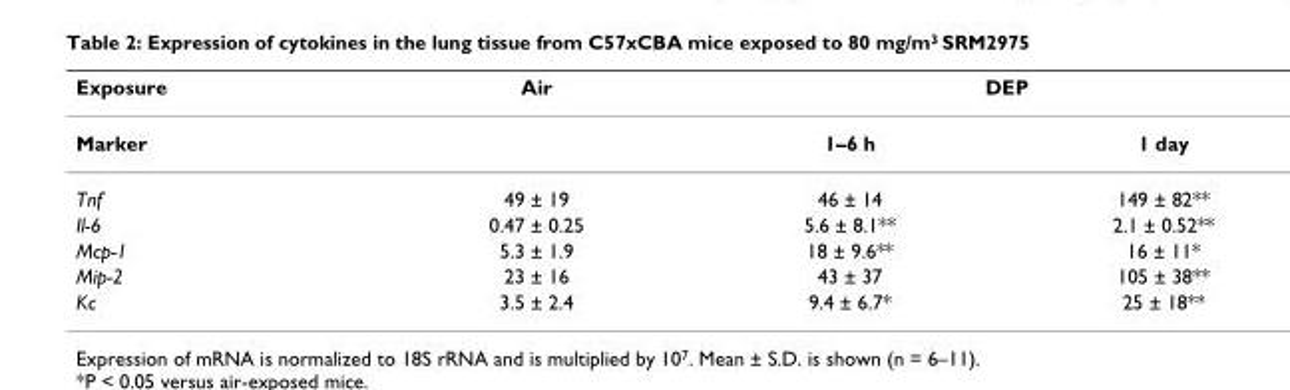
<table><thead><tr><td rowspan="2">Exposure Marker</td><td rowspan="2">Air</td><td colspan="2">DEP</td></tr><tr><td>1–6 h</td><td>1 day</td></tr></thead><tbody><tr><td>Tnf</td><td>49 ± 19</td><td>46 ± 14</td><td>149 ± 82**</td></tr><tr><td>Il-6</td><td>0.47 ± 0.25</td><td>5.6 ± 8.1**</td><td>2.1 ± 0.52**</td></tr><tr><td>Mcp-1</td><td>5.3 ± 1.9</td><td>18 ± 9.6**</td><td>16 ± 11*</td></tr><tr><td>Mip-2</td><td>23 ± 16</td><td>43 ± 37</td><td>105 ± 38**</td></tr><tr><td>Kc</td><td>3.5 ± 2.4</td><td>9.4 ± 6.7*</td><td>25 ± 18**</td></tr></tbody></table>